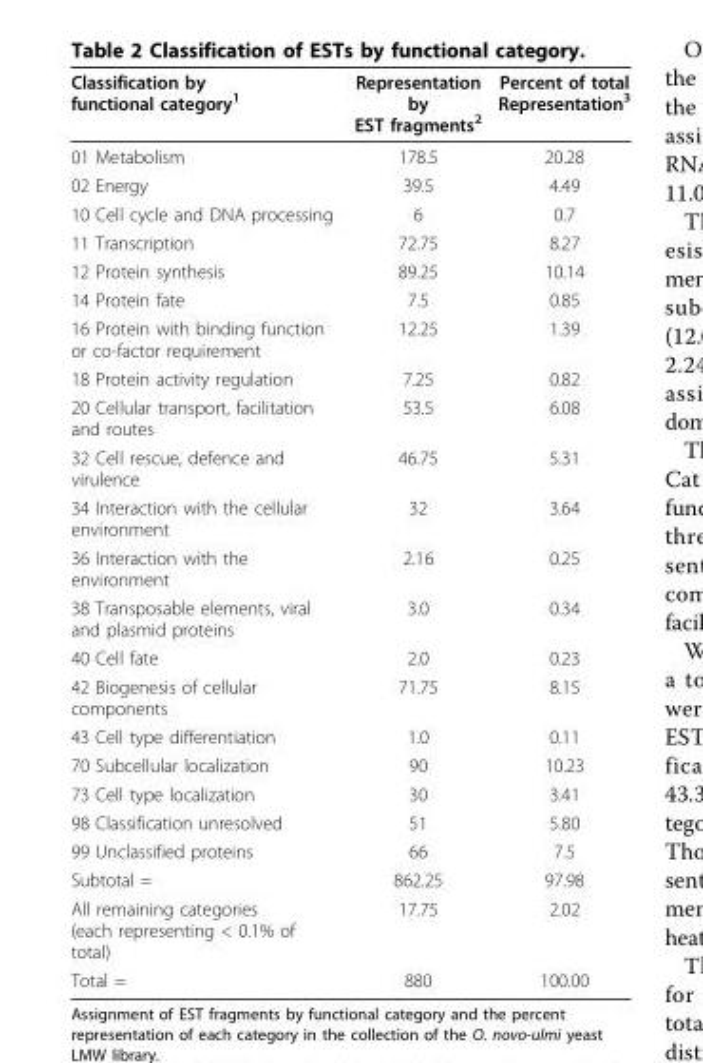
<table><thead><tr><td>Classification by functional category<sup>1</sup></td><td>Representation by EST fragments<sup>2</sup></td><td>Percent of total Representation<sup>3</sup></td></tr></thead><tbody><tr><td>01 Metabolism</td><td>178.5</td><td>20.28</td></tr><tr><td>02 Energy</td><td>39.5</td><td>4.49</td></tr><tr><td>10 Cell cycle and DNA processing</td><td>6</td><td>0.7</td></tr><tr><td>11 Transcription</td><td>72.75</td><td>8.27</td></tr><tr><td>12 Protein synthesis</td><td>89.25</td><td>10.14</td></tr><tr><td>14 Protein fate</td><td>7.5</td><td>0.85</td></tr><tr><td>16 Protein with binding function or co-factor requirement</td><td>12.25</td><td>1.39</td></tr><tr><td>18 Protein activity regulation</td><td>7.25</td><td>0.82</td></tr><tr><td>20 Cellular transport, facilitation and routes</td><td>53.5</td><td>6.08</td></tr><tr><td>32 Cell rescue, defence and virulence</td><td>46.75</td><td>5.31</td></tr><tr><td>34 Interaction with the cellular environment</td><td>32</td><td>3.64</td></tr><tr><td>36 Interaction with the environment</td><td>2.16</td><td>0.25</td></tr><tr><td>38 Transposable elements, viral and plasmid proteins</td><td>3.0</td><td>0.34</td></tr><tr><td>40 Cell fate</td><td>2.0</td><td>0.23</td></tr><tr><td>42 Biogenesis of cellular components</td><td>71.75</td><td>8.15</td></tr><tr><td>43 Cell type differentiation</td><td>1.0</td><td>0.11</td></tr><tr><td>70 Subcellular localization</td><td>90</td><td>10.23</td></tr><tr><td>73 Cell type localization</td><td>30</td><td>3.41</td></tr><tr><td>98 Classification unresolved</td><td>51</td><td>5.80</td></tr><tr><td>99 Unclassified proteins</td><td>66</td><td>7.5</td></tr><tr><td>Subtotal =</td><td>862.25</td><td>97.98</td></tr><tr><td>All remaining categories (each representing &lt; 0.1% of total)</td><td>17.75</td><td>2.02</td></tr><tr><td>Total =</td><td>880</td><td>100.00</td></tr></tbody></table>